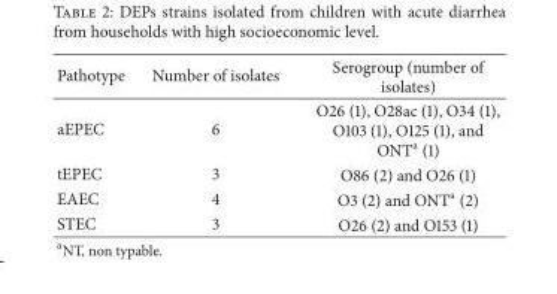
<table><thead><tr><td>Pathotype</td><td>Number of isolates</td><td>Serogroup (number of isolates)</td></tr></thead><tbody><tr><td>aEPEC</td><td>6</td><td>O26 (1), O28ac (1), O34 (1), O103 (1), O125 (1), and ONT<sup>a</sup> (1)</td></tr><tr><td>tEPEC</td><td>3</td><td>O86 (2) and O26 (1)</td></tr><tr><td>EAEC</td><td>4</td><td>O3 (2) and ONT<sup>a</sup> (2)</td></tr><tr><td>STEC</td><td>3</td><td>O26 (2) and O153 (1)</td></tr></tbody></table>